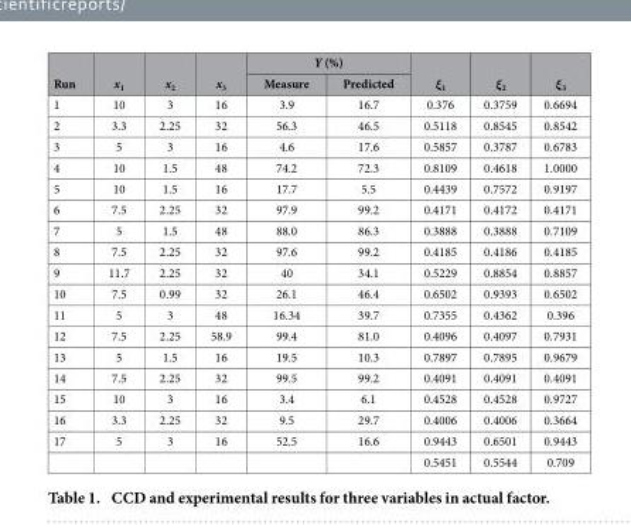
<table><thead><tr><td rowspan="2">Run</td><td rowspan="2">x<sub>1</sub></td><td rowspan="2">x<sub>2</sub></td><td rowspan="2">x<sub>3</sub></td><td colspan="2">Y (%)</td><td rowspan="2">ξ<sub>1</sub></td><td rowspan="2">ξ<sub>2</sub></td><td rowspan="2">ξ<sub>3</sub></td></tr><tr><td>Measure</td><td>Predicted</td></tr></thead><tbody><tr><td>1</td><td>10</td><td>3</td><td>16</td><td>3.9</td><td>16.7</td><td>0.376</td><td>0.3759</td><td>0.6694</td></tr><tr><td>2</td><td>3.3</td><td>2.25</td><td>32</td><td>56.3</td><td>46.5</td><td>0.5118</td><td>0.8545</td><td>0.8542</td></tr><tr><td>3</td><td>5</td><td>3</td><td>16</td><td>4.6</td><td>17.6</td><td>0.5857</td><td>0.3787</td><td>0.6783</td></tr><tr><td>4</td><td>10</td><td>1.5</td><td>48</td><td>74.2</td><td>72.3</td><td>0.8109</td><td>0.4618</td><td>1.0000</td></tr><tr><td>5</td><td>10</td><td>1.5</td><td>16</td><td>17.7</td><td>5.5</td><td>0.4439</td><td>0.7572</td><td>0.9197</td></tr><tr><td>6</td><td>7.5</td><td>2.25</td><td>32</td><td>97.9</td><td>99.2</td><td>0.4171</td><td>0.4172</td><td>0.4171</td></tr><tr><td>7</td><td>5</td><td>1.5</td><td>48</td><td>88.0</td><td>86.3</td><td>0.3888</td><td>0.3888</td><td>0.7109</td></tr><tr><td>8</td><td>7.5</td><td>2.25</td><td>32</td><td>97.6</td><td>99.2</td><td>0.4185</td><td>0.4186</td><td>0.4185</td></tr><tr><td>9</td><td>11.7</td><td>2.25</td><td>32</td><td>40</td><td>34.1</td><td>0.5229</td><td>0.8854</td><td>0.8857</td></tr><tr><td>10</td><td>7.5</td><td>0.99</td><td>32</td><td>26.1</td><td>46.4</td><td>0.6502</td><td>0.9393</td><td>0.6502</td></tr><tr><td>11</td><td>5</td><td>3</td><td>48</td><td>16.34</td><td>39.7</td><td>0.7355</td><td>0.4362</td><td>0.396</td></tr><tr><td>12</td><td>7.5</td><td>2.25</td><td>58.9</td><td>99.4</td><td>81.0</td><td>0.4096</td><td>0.4097</td><td>0.7931</td></tr><tr><td>13</td><td>5</td><td>1.5</td><td>16</td><td>19.5</td><td>10.3</td><td>0.7897</td><td>0.7895</td><td>0.9679</td></tr><tr><td>14</td><td>7.5</td><td>2.25</td><td>32</td><td>99.5</td><td>99.2</td><td>0.4091</td><td>0.4091</td><td>0.4091</td></tr><tr><td>15</td><td>10</td><td>3</td><td>16</td><td>3.4</td><td>6.1</td><td>0.4528</td><td>0.4528</td><td>0.9727</td></tr><tr><td>16</td><td>3.3</td><td>2.25</td><td>32</td><td>9.5</td><td>29.7</td><td>0.4006</td><td>0.4006</td><td>0.3664</td></tr><tr><td rowspan="2">17</td><td>5</td><td>3</td><td>16</td><td>52.5</td><td>16.6</td><td>0.9443</td><td>0.6501</td><td>0.9443</td></tr><tr><td></td><td></td><td></td><td></td><td></td><td>0.5451</td><td>0.5544</td><td>0.709</td></tr></tbody></table>